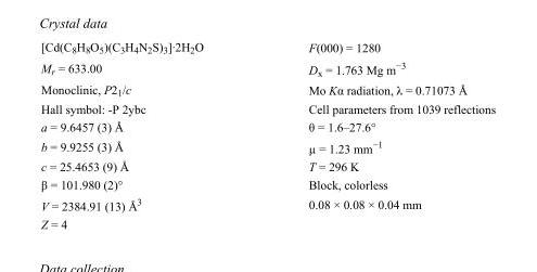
<table><tbody><tr><td>[Cd(C<sub>8</sub>H<sub>8</sub>O<sub>5</sub>)(C<sub>3</sub>H<sub>4</sub>N<sub>2</sub>S)<sub>3</sub>]·2H<sub>2</sub>O</td><td>F(000) = 1280</td></tr><tr><td>M<sub>r</sub> = 633.00</td><td>D<sub>x</sub> = 1.763 Mg m<sup>−3</sup></td></tr><tr><td>Monoclinic, P2<sub>1</sub>/c</td><td>Mo Kα radiation, λ = 0.71073 Å</td></tr><tr><td>Hall symbol: -P 2ybc</td><td>Cell parameters from 1039 reflections</td></tr><tr><td>a = 9.6457 (3) Å</td><td>θ = 1.6–27.6°</td></tr><tr><td>b = 9.9255 (3) Å</td><td>µ = 1.23 mm<sup>−1</sup></td></tr><tr><td>c = 25.4653 (9) Å</td><td>T = 296 K</td></tr><tr><td>β = 101.980 (2)°</td><td>Block, colorless</td></tr><tr><td>V = 2384.91 (13) Å<sup>3</sup></td><td>0.08 × 0.08 × 0.04 mm</td></tr><tr><td>Z = 4</td><td></td></tr></tbody></table>